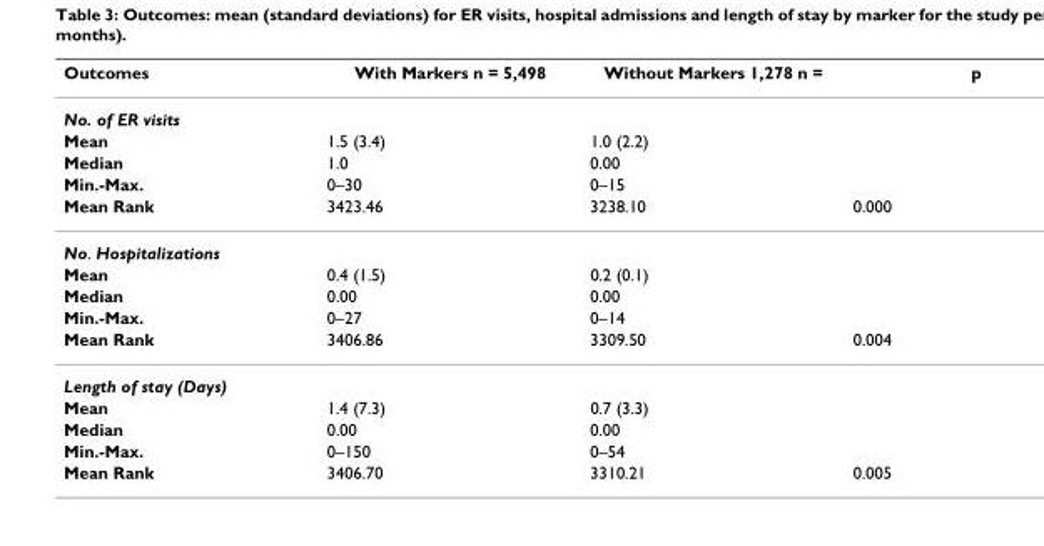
<table><thead><tr><td>Outcomes</td><td>With Markers n = 5,498</td><td>Without Markers 1,278 n =</td><td>p</td></tr></thead><tbody><tr><td colspan="4">No. of ER visits</td></tr><tr><td>Mean</td><td>1.5 (3.4)</td><td>1.0 (2.2)</td><td></td></tr><tr><td>Median</td><td>1.0</td><td>0.00</td><td></td></tr><tr><td>Min.-Max.</td><td>0–30</td><td>0–15</td><td></td></tr><tr><td>Mean Rank</td><td>3423.46</td><td>3238.10</td><td>0.000</td></tr><tr><td colspan="4">No. Hospitalizations</td></tr><tr><td>Mean</td><td>0.4 (1.5)</td><td>0.2 (0.1)</td><td></td></tr><tr><td>Median</td><td>0.00</td><td>0.00</td><td></td></tr><tr><td>Min.-Max.</td><td>0–27</td><td>0–14</td><td></td></tr><tr><td>Mean Rank</td><td>3406.86</td><td>3309.50</td><td>0.004</td></tr><tr><td colspan="4">Length of stay (Days)</td></tr><tr><td>Mean</td><td>1.4 (7.3)</td><td>0.7 (3.3)</td><td></td></tr><tr><td>Median</td><td>0.00</td><td>0.00</td><td></td></tr><tr><td>Min.-Max.</td><td>0–150</td><td>0–54</td><td></td></tr><tr><td>Mean Rank</td><td>3406.70</td><td>3310.21</td><td>0.005</td></tr></tbody></table>